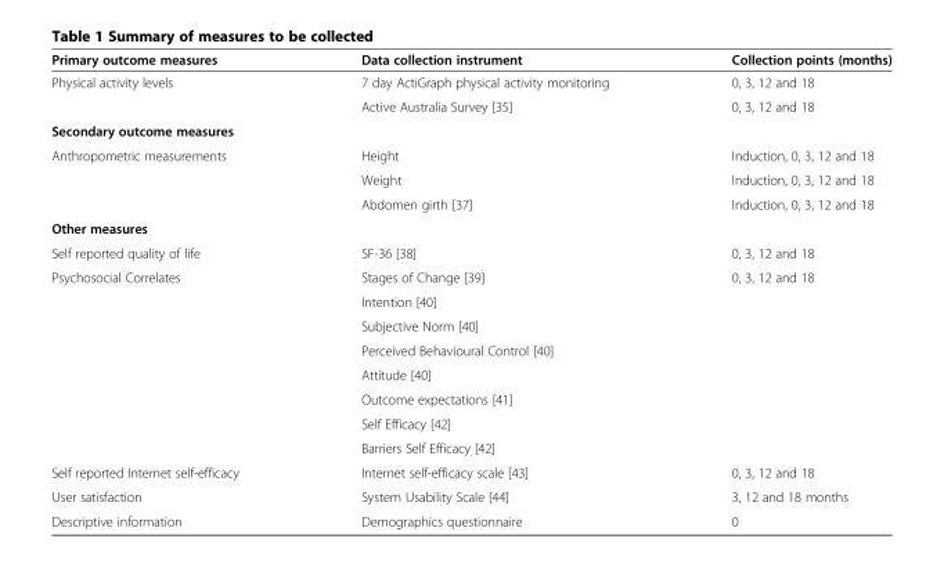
<table><thead><tr><td>Primary outcome measures</td><td>Data collection instrument</td><td>Collection points (months)</td></tr></thead><tbody><tr><td rowspan="2">Physical activity levels</td><td>7 day ActiGraph physical activity monitoring</td><td>0, 3, 12 and 18</td></tr><tr><td>Active Australia Survey [35]</td><td>0, 3, 12 and 18</td></tr><tr><td colspan="3">Secondary outcome measures</td></tr><tr><td rowspan="3">Anthropometric measurements</td><td>Height</td><td>Induction, 0, 3, 12 and 18</td></tr><tr><td>Weight</td><td>Induction, 0, 3, 12 and 18</td></tr><tr><td>Abdomen girth [37]</td><td>Induction, 0, 3, 12 and 18</td></tr><tr><td colspan="3">Other measures</td></tr><tr><td>Self reported quality of life</td><td>SF-36 [38]</td><td>0, 3, 12 and 18</td></tr><tr><td rowspan="8">Psychosocial Correlates</td><td>Stages of Change [39]</td><td rowspan="8">0, 3, 12 and 18</td></tr><tr><td>Intention [40]</td></tr><tr><td>Subjective Norm [40]</td></tr><tr><td>Perceived Behavioural Control [40]</td></tr><tr><td>Attitude [40]</td></tr><tr><td>Outcome expectations [41]</td></tr><tr><td>Self Efficacy [42]</td></tr><tr><td>Barriers Self Efficacy [42]</td></tr><tr><td>Self reported Internet self-efficacy</td><td>Internet self-efficacy scale [43]</td><td>0, 3, 12 and 18</td></tr><tr><td>User satisfaction</td><td>System Usability Scale [44]</td><td>3, 12 and 18 months</td></tr><tr><td>Descriptive information</td><td>Demographics questionnaire</td><td>0</td></tr></tbody></table>